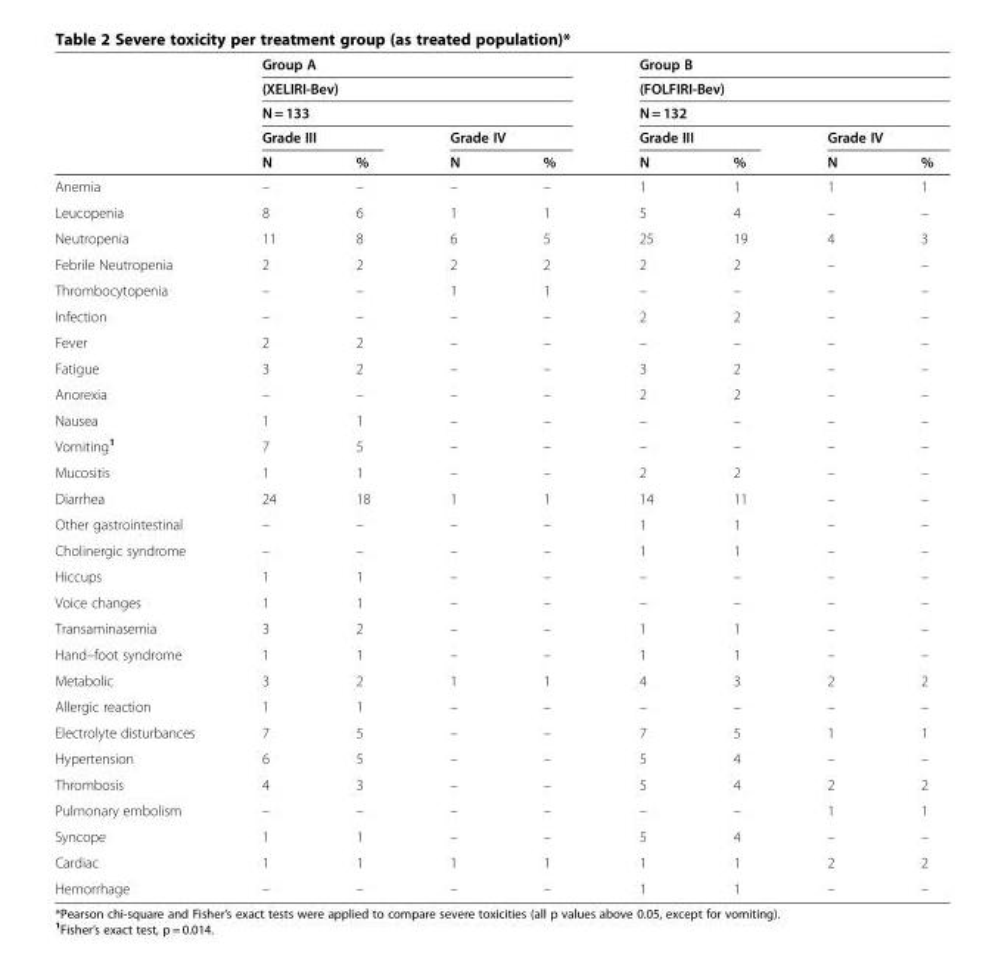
<table><thead><tr><td rowspan="5"></td><td rowspan="3" colspan="4">Group A (XELIRI-Bev) N = 133</td><td rowspan="3" colspan="4">Group B (FOLFIRI-Bev) N = 132</td></tr><tr></tr><tr></tr><tr><td colspan="2">Grade III</td><td colspan="2">Grade IV</td><td colspan="2">Grade III</td><td colspan="2">Grade IV</td></tr><tr><td>N</td><td>%</td><td>N</td><td>%</td><td>N</td><td>%</td><td>N</td><td>%</td></tr></thead><tbody><tr><td>Anemia</td><td>–</td><td>–</td><td>–</td><td>–</td><td>1</td><td>1</td><td>1</td><td>1</td></tr><tr><td>Leucopenia</td><td>8</td><td>6</td><td>1</td><td>1</td><td>5</td><td>4</td><td>–</td><td>–</td></tr><tr><td>Neutropenia</td><td>11</td><td>8</td><td>6</td><td>5</td><td>25</td><td>19</td><td>4</td><td>3</td></tr><tr><td>Febrile Neutropenia</td><td>2</td><td>2</td><td>2</td><td>2</td><td>2</td><td>2</td><td>–</td><td>–</td></tr><tr><td>Thrombocytopenia</td><td>–</td><td>–</td><td>1</td><td>1</td><td>–</td><td>–</td><td>–</td><td>–</td></tr><tr><td>Infection</td><td>–</td><td>–</td><td>–</td><td>–</td><td>2</td><td>2</td><td>–</td><td>–</td></tr><tr><td>Fever</td><td>2</td><td>2</td><td>–</td><td>–</td><td>–</td><td>–</td><td>–</td><td>–</td></tr><tr><td>Fatigue</td><td>3</td><td>2</td><td>–</td><td>–</td><td>3</td><td>2</td><td>–</td><td>–</td></tr><tr><td>Anorexia</td><td>–</td><td>–</td><td>–</td><td>–</td><td>2</td><td>2</td><td>–</td><td>–</td></tr><tr><td>Nausea</td><td>1</td><td>1</td><td>–</td><td>–</td><td>–</td><td>–</td><td>–</td><td>–</td></tr><tr><td>Vomiting<sup>1</sup></td><td>7</td><td>5</td><td>–</td><td>–</td><td>–</td><td>–</td><td>–</td><td>–</td></tr><tr><td>Mucositis</td><td>1</td><td>1</td><td>–</td><td>–</td><td>2</td><td>2</td><td>–</td><td>–</td></tr><tr><td>Diarrhea</td><td>24</td><td>18</td><td>1</td><td>1</td><td>14</td><td>11</td><td>–</td><td>–</td></tr><tr><td>Other gastrointestinal</td><td>–</td><td>–</td><td>–</td><td>–</td><td>1</td><td>1</td><td>–</td><td>–</td></tr><tr><td>Cholinergic syndrome</td><td>–</td><td>–</td><td>–</td><td>–</td><td>1</td><td>1</td><td>–</td><td>–</td></tr><tr><td>Hiccups</td><td>1</td><td>1</td><td>–</td><td>–</td><td>–</td><td>–</td><td>–</td><td>–</td></tr><tr><td>Voice changes</td><td>1</td><td>1</td><td>–</td><td>–</td><td>–</td><td>–</td><td>–</td><td>–</td></tr><tr><td>Transaminasemia</td><td>3</td><td>2</td><td>–</td><td>–</td><td>1</td><td>1</td><td>–</td><td>–</td></tr><tr><td>Hand–foot syndrome</td><td>1</td><td>1</td><td>–</td><td>–</td><td>1</td><td>1</td><td>–</td><td>–</td></tr><tr><td>Metabolic</td><td>3</td><td>2</td><td>1</td><td>1</td><td>4</td><td>3</td><td>2</td><td>2</td></tr><tr><td>Allergic reaction</td><td>1</td><td>1</td><td>–</td><td>–</td><td>–</td><td>–</td><td>–</td><td>–</td></tr><tr><td>Electrolyte disturbances</td><td>7</td><td>5</td><td>–</td><td>–</td><td>7</td><td>5</td><td>1</td><td>1</td></tr><tr><td>Hypertension</td><td>6</td><td>5</td><td>–</td><td>–</td><td>5</td><td>4</td><td>–</td><td>–</td></tr><tr><td>Thrombosis</td><td>4</td><td>3</td><td>–</td><td>–</td><td>5</td><td>4</td><td>2</td><td>2</td></tr><tr><td>Pulmonary embolism</td><td>–</td><td>–</td><td>–</td><td>–</td><td>–</td><td>–</td><td>1</td><td>1</td></tr><tr><td>Syncope</td><td>1</td><td>1</td><td>–</td><td>–</td><td>5</td><td>4</td><td>–</td><td>–</td></tr><tr><td>Cardiac</td><td>1</td><td>1</td><td>1</td><td>1</td><td>1</td><td>1</td><td>2</td><td>2</td></tr><tr><td>Hemorrhage</td><td>–</td><td>–</td><td>–</td><td>–</td><td>1</td><td>1</td><td>–</td><td>–</td></tr></tbody></table>